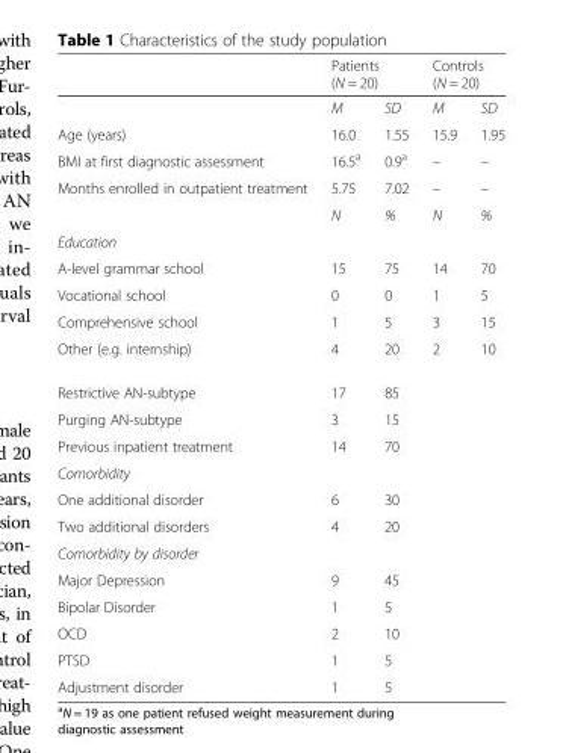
<table><thead><tr><td rowspan="2"></td><td colspan="2">Patients (N = 20)</td><td colspan="2">Controls (N = 20)</td></tr><tr><td>M</td><td>SD</td><td>M</td><td>SD</td></tr></thead><tbody><tr><td>Age (years)</td><td>16.0</td><td>1.55</td><td>15.9</td><td>1.95</td></tr><tr><td>BMI at first diagnostic assessment</td><td>16.5<sup>a</sup></td><td>0.9<sup>a</sup></td><td>–</td><td>–</td></tr><tr><td rowspan="2">Months enrolled in outpatient treatment</td><td>5.75</td><td>7.02</td><td>–</td><td>–</td></tr><tr><td>N</td><td>%</td><td>N</td><td>%</td></tr><tr><td colspan="5">Education</td></tr><tr><td>A-level grammar school</td><td>15</td><td>75</td><td>14</td><td>70</td></tr><tr><td>Vocational school</td><td>0</td><td>0</td><td>1</td><td>5</td></tr><tr><td>Comprehensive school</td><td>1</td><td>5</td><td>3</td><td>15</td></tr><tr><td>Other (e.g. internship)</td><td>4</td><td>20</td><td>2</td><td>10</td></tr><tr><td>Restrictive AN-subtype</td><td>17</td><td>85</td><td></td><td></td></tr><tr><td>Purging AN-subtype</td><td>3</td><td>15</td><td></td><td></td></tr><tr><td>Previous inpatient treatment</td><td>14</td><td>70</td><td></td><td></td></tr><tr><td colspan="5">Comorbidity</td></tr><tr><td>One additional disorder</td><td>6</td><td>30</td><td></td><td></td></tr><tr><td>Two additional disorders</td><td>4</td><td>20</td><td></td><td></td></tr><tr><td colspan="5">Comorbidity by disorder</td></tr><tr><td>Major Depression</td><td>9</td><td>45</td><td></td><td></td></tr><tr><td>Bipolar Disorder</td><td>1</td><td>5</td><td></td><td></td></tr><tr><td>OCD</td><td>2</td><td>10</td><td></td><td></td></tr><tr><td>PTSD</td><td>1</td><td>5</td><td></td><td></td></tr><tr><td>Adjustment disorder</td><td>1</td><td>5</td><td></td><td></td></tr></tbody></table>